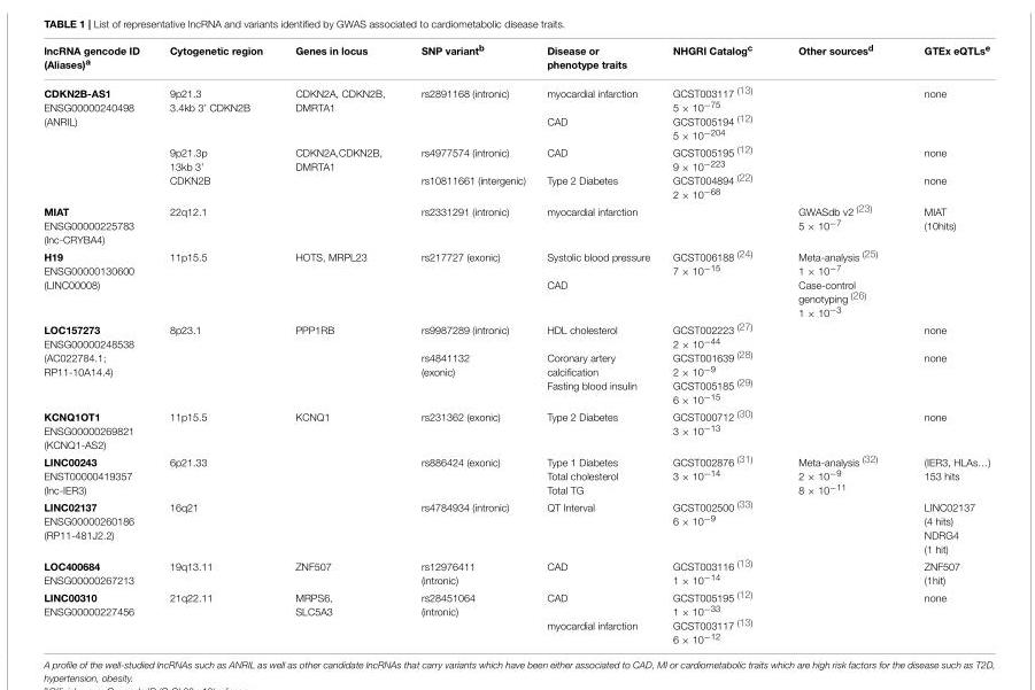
<table><thead><tr><td>lncRNA gencode ID (Aliases)a</td><td>Cytogenetic region</td><td>Genes in locus</td><td>SNP variantb</td><td>Disease or phenotype traits</td><td>NHGRI Catalogc</td><td>Other sourcesd</td><td>GTEx eQTLse</td></tr></thead><tbody><tr><td rowspan="2">CDKN2B-AS1 ENSG00000240498 (ANRIL)</td><td>9p21.3 3.4kb 3’ CDKN2B</td><td>CDKN2A, CDKN2B, DMRTA1</td><td>rs2891168 (intronic)</td><td>myocardial infarction CAD</td><td>GCST003117 <sup>(13)</sup> 5 × 10<sup>−75</sup> GCST005194 <sup>(12)</sup> 5 × 10<sup>−204</sup></td><td></td><td>none</td></tr><tr><td>9p21.3p 13kb 3’ CDKN2B</td><td>CDKN2A,CDKN2B, DMRTA1</td><td>rs4977574 (intronic) rs10811661 (intergenic)</td><td>CAD Type 2 Diabetes</td><td>GCST005195 (12) 9 × 10−223 GCST004894 (22) 2 × 10−68</td><td></td><td>none none</td></tr><tr><td>MIAT ENSG00000225783 (lnc-CRYBA4)</td><td>22q12.1</td><td></td><td>rs2331291 (intronic)</td><td>myocardial infarction</td><td></td><td>GWASdb v2 (23) 5 × 10−7</td><td>MIAT (10hits)</td></tr><tr><td>H19 ENSG00000130600 (LINC00008)</td><td>11p15.5</td><td>HOTS, MRPL23</td><td>rs217727 (exonic)</td><td>Systolic blood pressure CAD</td><td>GCST006188 (24) 7 × 10−15</td><td>Meta-analysis (25) 1 × 10−7 Case-control genotyping (26) 1 × 10−3</td><td></td></tr><tr><td>LOC157273 ENSG00000248538 (AC022784.1; RP11-10A14.4)</td><td>8p23.1</td><td>PPP1RB</td><td>rs9987289 (intronic) rs4841132 (exonic)</td><td>HDL cholesterol Coronary artery calcification Fasting blood insulin</td><td>GCST002223 (27) 2 × 10−44 GCST001639 (28) 2 × 10−9 GCST005185 (29) 6 × 10−15</td><td></td><td>none none</td></tr><tr><td>KCNQ1OT1 ENSG00000269821 (KCNQ1-AS2)</td><td>11p15.5</td><td>KCNQ1</td><td>rs231362 (exonic)</td><td>Type 2 Diabetes</td><td>GCST000712 (30) 3 × 10−13</td><td></td><td>none</td></tr><tr><td>LINC00243 ENST00000419357 (lnc-IER3)</td><td>6p21.33</td><td></td><td>rs886424 (exonic)</td><td>Type 1 Diabetes Total cholesterol Total TG</td><td>GCST002876 (31) 3 × 10−14</td><td>Meta-analysis (32) 2 × 10−9 8 × 10−11</td><td>(IER3, HLAs…) 153 hits</td></tr><tr><td>LINC02137 ENSG00000260186 (RP11-481J2.2)</td><td>16q21</td><td></td><td>rs4784934 (intronic)</td><td>QT Interval</td><td>GCST002500 (33) 6 × 10−9</td><td></td><td>LINC02137 (4 hits) NDRG4 (1 hit)</td></tr><tr><td>LOC400684 ENSG00000267213</td><td>19q13.11</td><td>ZNF507</td><td>rs12976411 (intronic)</td><td>CAD</td><td>GCST003116 <sup>(13)</sup> 1 × 10<sup>−14</sup></td><td></td><td>ZNF507 (1hit)</td></tr><tr><td>LINC00310 ENSG00000227456</td><td>21q22.11</td><td>MRPS6, SLC5A3</td><td>rs28451064 (intronic)</td><td>CAD myocardial infarction</td><td>GCST005195 <sup>(12)</sup> 1 × 10<sup>−33</sup> GCST003117 <sup>(13)</sup> 6 × 10<sup>−12</sup></td><td></td><td>none</td></tr></tbody></table>